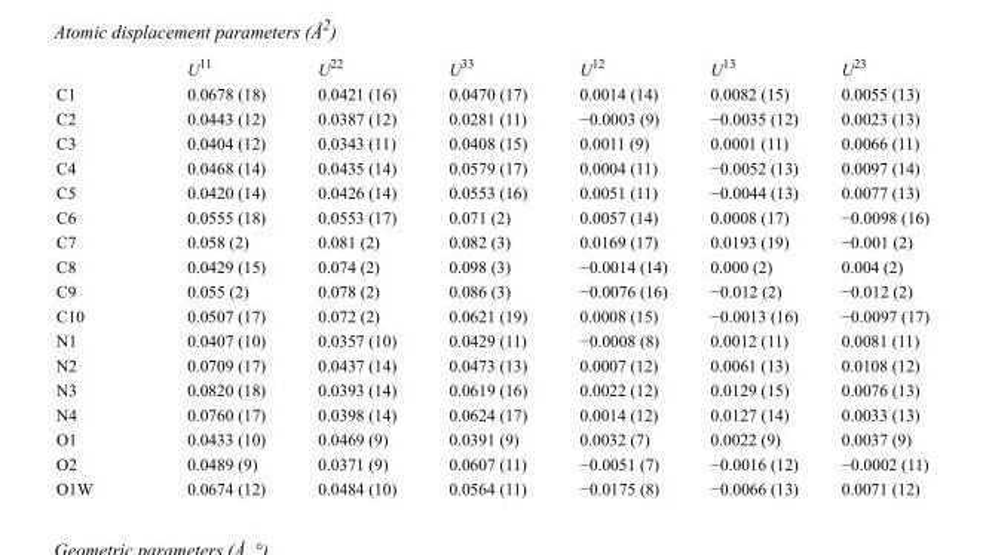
<table><thead><tr><td></td><td>U<sup>11</sup></td><td>U<sup>22</sup></td><td>U<sup>33</sup></td><td>U<sup>12</sup></td><td>U<sup>13</sup></td><td>U<sup>23</sup></td></tr></thead><tbody><tr><td>C1</td><td>0.0678 (18)</td><td>0.0421 (16)</td><td>0.0470 (17)</td><td>0.0014 (14)</td><td>0.0082 (15)</td><td>0.0055 (13)</td></tr><tr><td>C2</td><td>0.0443 (12)</td><td>0.0387 (12)</td><td>0.0281 (11)</td><td>−0.0003 (9)</td><td>−0.0035 (12)</td><td>0.0023 (13)</td></tr><tr><td>C3</td><td>0.0404 (12)</td><td>0.0343 (11)</td><td>0.0408 (15)</td><td>0.0011 (9)</td><td>0.0001 (11)</td><td>0.0066 (11)</td></tr><tr><td>C4</td><td>0.0468 (14)</td><td>0.0435 (14)</td><td>0.0579 (17)</td><td>0.0004 (11)</td><td>−0.0052 (13)</td><td>0.0097 (14)</td></tr><tr><td>C5</td><td>0.0420 (14)</td><td>0.0426 (14)</td><td>0.0553 (16)</td><td>0.0051 (11)</td><td>−0.0044 (13)</td><td>0.0077 (13)</td></tr><tr><td>C6</td><td>0.0555 (18)</td><td>0.0553 (17)</td><td>0.071 (2)</td><td>0.0057 (14)</td><td>0.0008 (17)</td><td>−0.0098 (16)</td></tr><tr><td>C7</td><td>0.058 (2)</td><td>0.081 (2)</td><td>0.082 (3)</td><td>0.0169 (17)</td><td>0.0193 (19)</td><td>−0.001 (2)</td></tr><tr><td>C8</td><td>0.0429 (15)</td><td>0.074 (2)</td><td>0.098 (3)</td><td>−0.0014 (14)</td><td>0.000 (2)</td><td>0.004 (2)</td></tr><tr><td>C9</td><td>0.055 (2)</td><td>0.078 (2)</td><td>0.086 (3)</td><td>−0.0076 (16)</td><td>−0.012 (2)</td><td>−0.012 (2)</td></tr><tr><td>C10</td><td>0.0507 (17)</td><td>0.072 (2)</td><td>0.0621 (19)</td><td>0.0008 (15)</td><td>−0.0013 (16)</td><td>−0.0097 (17)</td></tr><tr><td>N1</td><td>0.0407 (10)</td><td>0.0357 (10)</td><td>0.0429 (11)</td><td>−0.0008 (8)</td><td>0.0012 (11)</td><td>0.0081 (11)</td></tr><tr><td>N2</td><td>0.0709 (17)</td><td>0.0437 (14)</td><td>0.0473 (13)</td><td>0.0007 (12)</td><td>0.0061 (13)</td><td>0.0108 (12)</td></tr><tr><td>N3</td><td>0.0820 (18)</td><td>0.0393 (14)</td><td>0.0619 (16)</td><td>0.0022 (12)</td><td>0.0129 (15)</td><td>0.0076 (13)</td></tr><tr><td>N4</td><td>0.0760 (17)</td><td>0.0398 (14)</td><td>0.0624 (17)</td><td>0.0014 (12)</td><td>0.0127 (14)</td><td>0.0033 (13)</td></tr><tr><td>O1</td><td>0.0433 (10)</td><td>0.0469 (9)</td><td>0.0391 (9)</td><td>0.0032 (7)</td><td>0.0022 (9)</td><td>0.0037 (9)</td></tr><tr><td>O2</td><td>0.0489 (9)</td><td>0.0371 (9)</td><td>0.0607 (11)</td><td>−0.0051 (7)</td><td>−0.0016 (12)</td><td>−0.0002 (11)</td></tr><tr><td>O1W</td><td>0.0674 (12)</td><td>0.0484 (10)</td><td>0.0564 (11)</td><td>−0.0175 (8)</td><td>−0.0066 (13)</td><td>0.0071 (12)</td></tr></tbody></table>